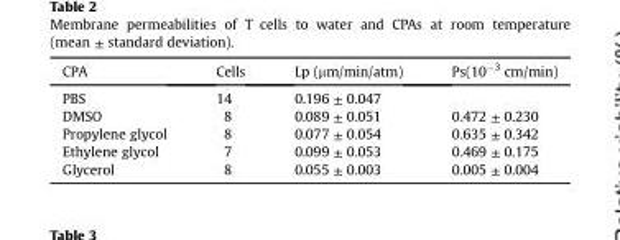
<table><thead><tr><td>CPA</td><td>Cells</td><td>Lp (μm/min/atm)</td><td>Ps(10<sup>−3</sup> cm/min)</td></tr></thead><tbody><tr><td>PBS</td><td>14</td><td>0.196 ± 0.047</td><td></td></tr><tr><td>DMSO</td><td>8</td><td>0.089 ± 0.051</td><td>0.472 ± 0.230</td></tr><tr><td>Propylene glycol</td><td>8</td><td>0.077 ± 0.054</td><td>0.635 ± 0.342</td></tr><tr><td>Ethylene glycol</td><td>7</td><td>0.099 ± 0.053</td><td>0.469 ± 0.175</td></tr><tr><td>Glycerol</td><td>8</td><td>0.055 ± 0.003</td><td>0.005 ± 0.004</td></tr></tbody></table>